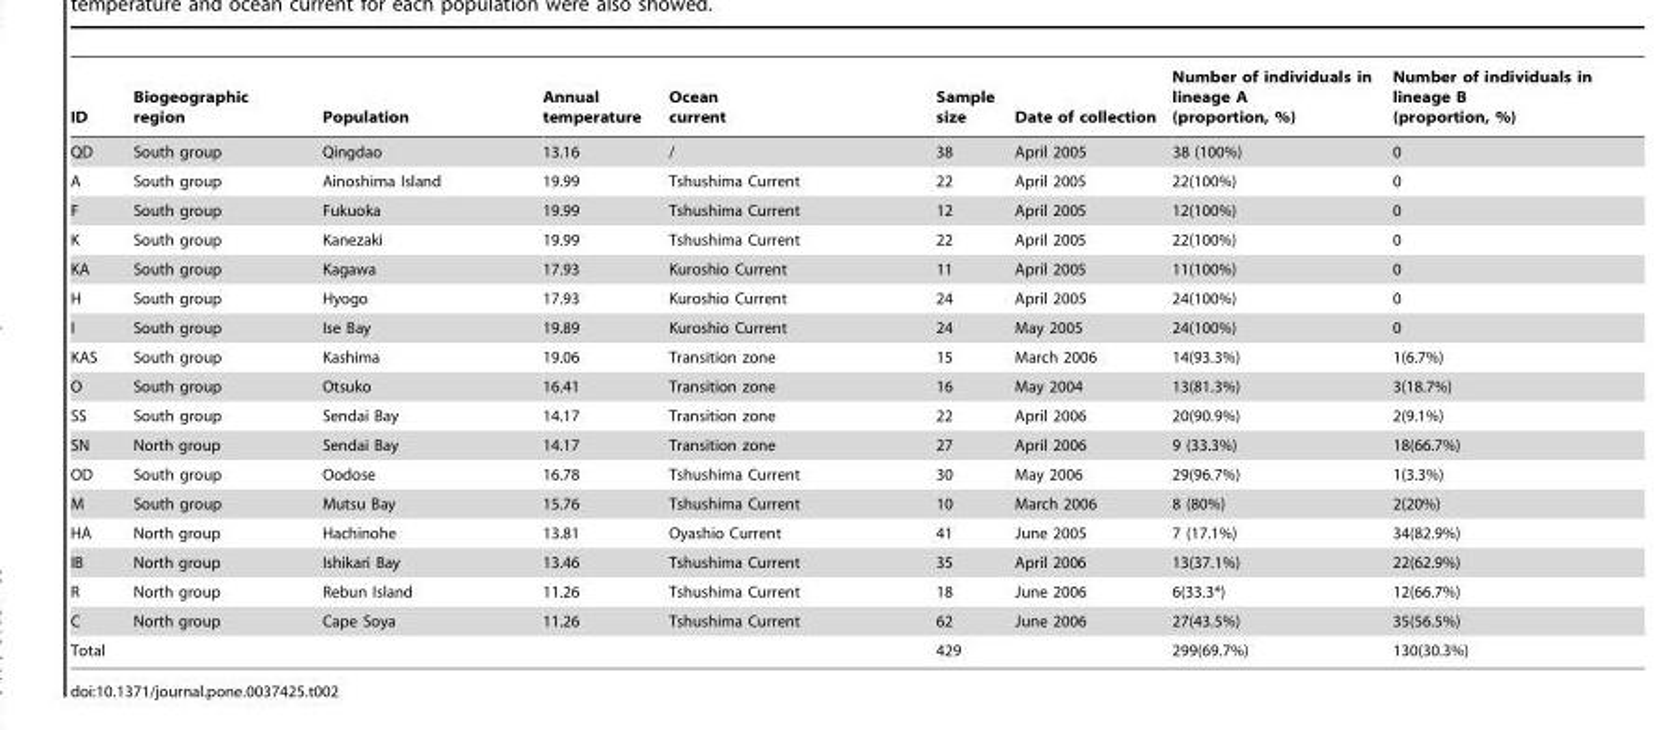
<table><thead><tr><td>ID</td><td>Biogeographic region</td><td>Population</td><td>Annual temperature</td><td>Ocean current</td><td>Sample size</td><td>Date of collection</td><td>Number of individuals in lineage A (proportion, %)</td><td>Number of individuals in lineage B (proportion, %)</td></tr></thead><tbody><tr><td>QD</td><td>South group</td><td>Qingdao</td><td>13.16</td><td>/</td><td>38</td><td>April 2005</td><td>38 (100%)</td><td>0</td></tr><tr><td>A</td><td>South group</td><td>Ainoshima Island</td><td>19.99</td><td>Tshushima Current</td><td>22</td><td>April 2005</td><td>22(100%)</td><td>0</td></tr><tr><td>F</td><td>South group</td><td>Fukuoka</td><td>19.99</td><td>Tshushima Current</td><td>12</td><td>April 2005</td><td>12(100%)</td><td>0</td></tr><tr><td>K</td><td>South group</td><td>Kanezaki</td><td>19.99</td><td>Tshushima Current</td><td>22</td><td>April 2005</td><td>22(100%)</td><td>0</td></tr><tr><td>KA</td><td>South group</td><td>Kagawa</td><td>17.93</td><td>Kuroshio Current</td><td>11</td><td>April 2005</td><td>11(100%)</td><td>0</td></tr><tr><td>H</td><td>South group</td><td>Hyogo</td><td>17.93</td><td>Kuroshio Current</td><td>24</td><td>April 2005</td><td>24(100%)</td><td>0</td></tr><tr><td>I</td><td>South group</td><td>Ise Bay</td><td>19.89</td><td>Kuroshio Current</td><td>24</td><td>May 2005</td><td>24(100%)</td><td>0</td></tr><tr><td>KAS</td><td>South group</td><td>Kashima</td><td>19.06</td><td>Transition zone</td><td>15</td><td>March 2006</td><td>14(93.3%)</td><td>1(6.7%)</td></tr><tr><td>O</td><td>South group</td><td>Otsuko</td><td>16.41</td><td>Transition zone</td><td>16</td><td>May 2004</td><td>13(81.3%)</td><td>3(18.7%)</td></tr><tr><td>SS</td><td>South group</td><td>Sendai Bay</td><td>14.17</td><td>Transition zone</td><td>22</td><td>April 2006</td><td>20(90.9%)</td><td>2(9.1%)</td></tr><tr><td>SN</td><td>North group</td><td>Sendai Bay</td><td>14.17</td><td>Transition zone</td><td>27</td><td>April 2006</td><td>9 (33.3%)</td><td>18(66.7%)</td></tr><tr><td>OD</td><td>South group</td><td>Oodose</td><td>16.78</td><td>Tshushima Current</td><td>30</td><td>May 2006</td><td>29(96.7%)</td><td>1(3.3%)</td></tr><tr><td>M</td><td>South group</td><td>Mutsu Bay</td><td>15.76</td><td>Tshushima Current</td><td>10</td><td>March 2006</td><td>8 (80%)</td><td>2(20%)</td></tr><tr><td>HA</td><td>North group</td><td>Hachinohe</td><td>13.81</td><td>Oyashio Current</td><td>41</td><td>June 2005</td><td>7 (17.1%)</td><td>34(82.9%)</td></tr><tr><td>IB</td><td>North group</td><td>Ishikari Bay</td><td>13.46</td><td>Tshushima Current</td><td>35</td><td>April 2006</td><td>13(37.1%)</td><td>22(62.9%)</td></tr><tr><td>R</td><td>North group</td><td>Rebun Island</td><td>11.26</td><td>Tshushima Current</td><td>18</td><td>June 2006</td><td>6(33.3*)</td><td>12(66.7%)</td></tr><tr><td>C</td><td>North group</td><td>Cape Soya</td><td>11.26</td><td>Tshushima Current</td><td>62</td><td>June 2006</td><td>27(43.5%)</td><td>35(56.5%)</td></tr><tr><td>Total</td><td></td><td></td><td></td><td></td><td>429</td><td></td><td>299(69.7%)</td><td>130(30.3%)</td></tr></tbody></table>